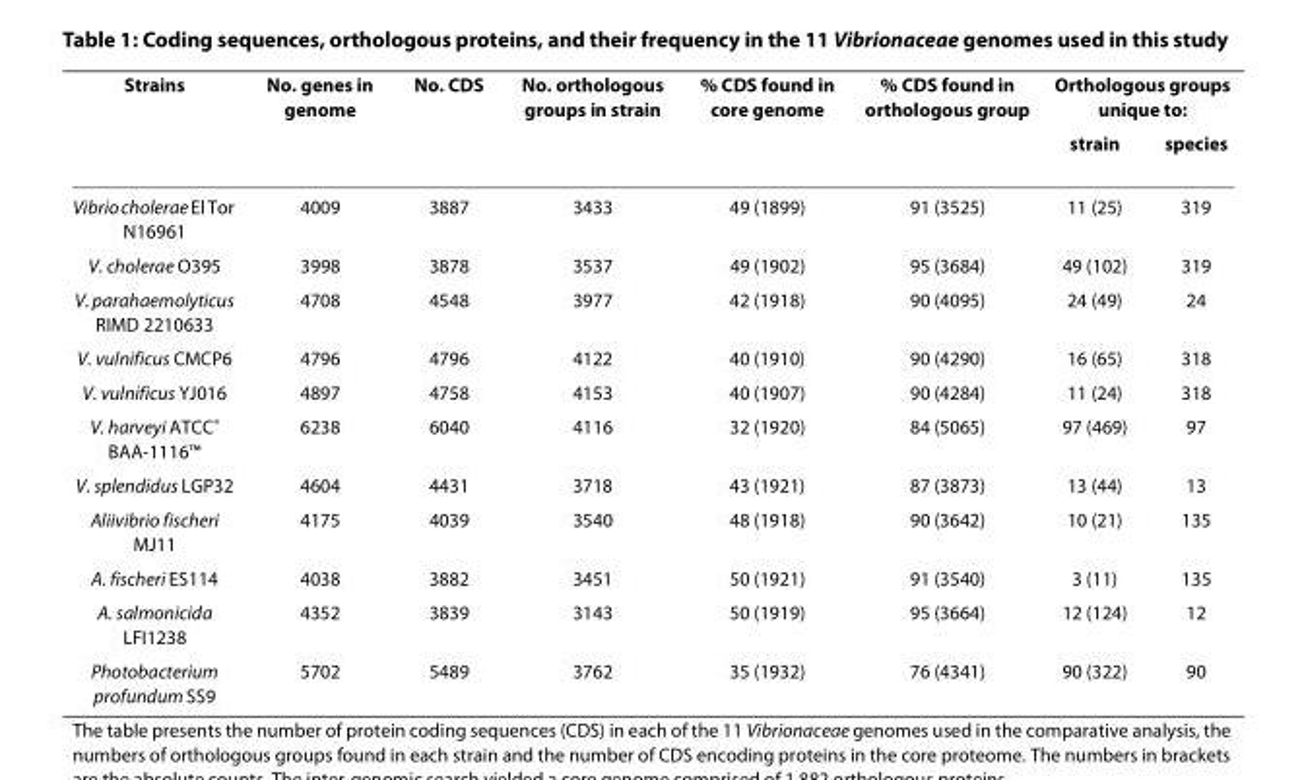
<table><thead><tr><td rowspan="2">Strains</td><td rowspan="2">No. genes in genome</td><td rowspan="2">No. CDS</td><td rowspan="2">No. orthologous groups in strain</td><td rowspan="2">% CDS found in core genome</td><td rowspan="2">% CDS found in orthologous group</td><td colspan="2">Orthologous groups unique to:</td></tr><tr><td>strain</td><td>species</td></tr></thead><tbody><tr><td>Vibrio cholerae El Tor N16961</td><td>4009</td><td>3887</td><td>3433</td><td>49 (1899)</td><td>91 (3525)</td><td>11 (25)</td><td>319</td></tr><tr><td>V. cholerae O395</td><td>3998</td><td>3878</td><td>3537</td><td>49 (1902)</td><td>95 (3684)</td><td>49 (102)</td><td>319</td></tr><tr><td>V. parahaemolyticus RIMD 2210633</td><td>4708</td><td>4548</td><td>3977</td><td>42 (1918)</td><td>90 (4095)</td><td>24 (49)</td><td>24</td></tr><tr><td>V. vulnificus CMCP6</td><td>4796</td><td>4796</td><td>4122</td><td>40 (1910)</td><td>90 (4290)</td><td>16 (65)</td><td>318</td></tr><tr><td>V. vulnificus YJ016</td><td>4897</td><td>4758</td><td>4153</td><td>40 (1907)</td><td>90 (4284)</td><td>11 (24)</td><td>318</td></tr><tr><td>V. harveyi ATCC<sup>®</sup> BAA-1116™</td><td>6238</td><td>6040</td><td>4116</td><td>32 (1920)</td><td>84 (5065)</td><td>97 (469)</td><td>97</td></tr><tr><td>V. splendidus LGP32</td><td>4604</td><td>4431</td><td>3718</td><td>43 (1921)</td><td>87 (3873)</td><td>13 (44)</td><td>13</td></tr><tr><td>Aliivibrio fischeri MJ11</td><td>4175</td><td>4039</td><td>3540</td><td>48 (1918)</td><td>90 (3642)</td><td>10 (21)</td><td>135</td></tr><tr><td>A. fischeri ES114</td><td>4038</td><td>3882</td><td>3451</td><td>50 (1921)</td><td>91 (3540)</td><td>3 (11)</td><td>135</td></tr><tr><td>A. salmonicida LFI1238</td><td>4352</td><td>3839</td><td>3143</td><td>50 (1919)</td><td>95 (3664)</td><td>12 (124)</td><td>12</td></tr><tr><td>Photobacterium profundum SS9</td><td>5702</td><td>5489</td><td>3762</td><td>35 (1932)</td><td>76 (4341)</td><td>90 (322)</td><td>90</td></tr></tbody></table>